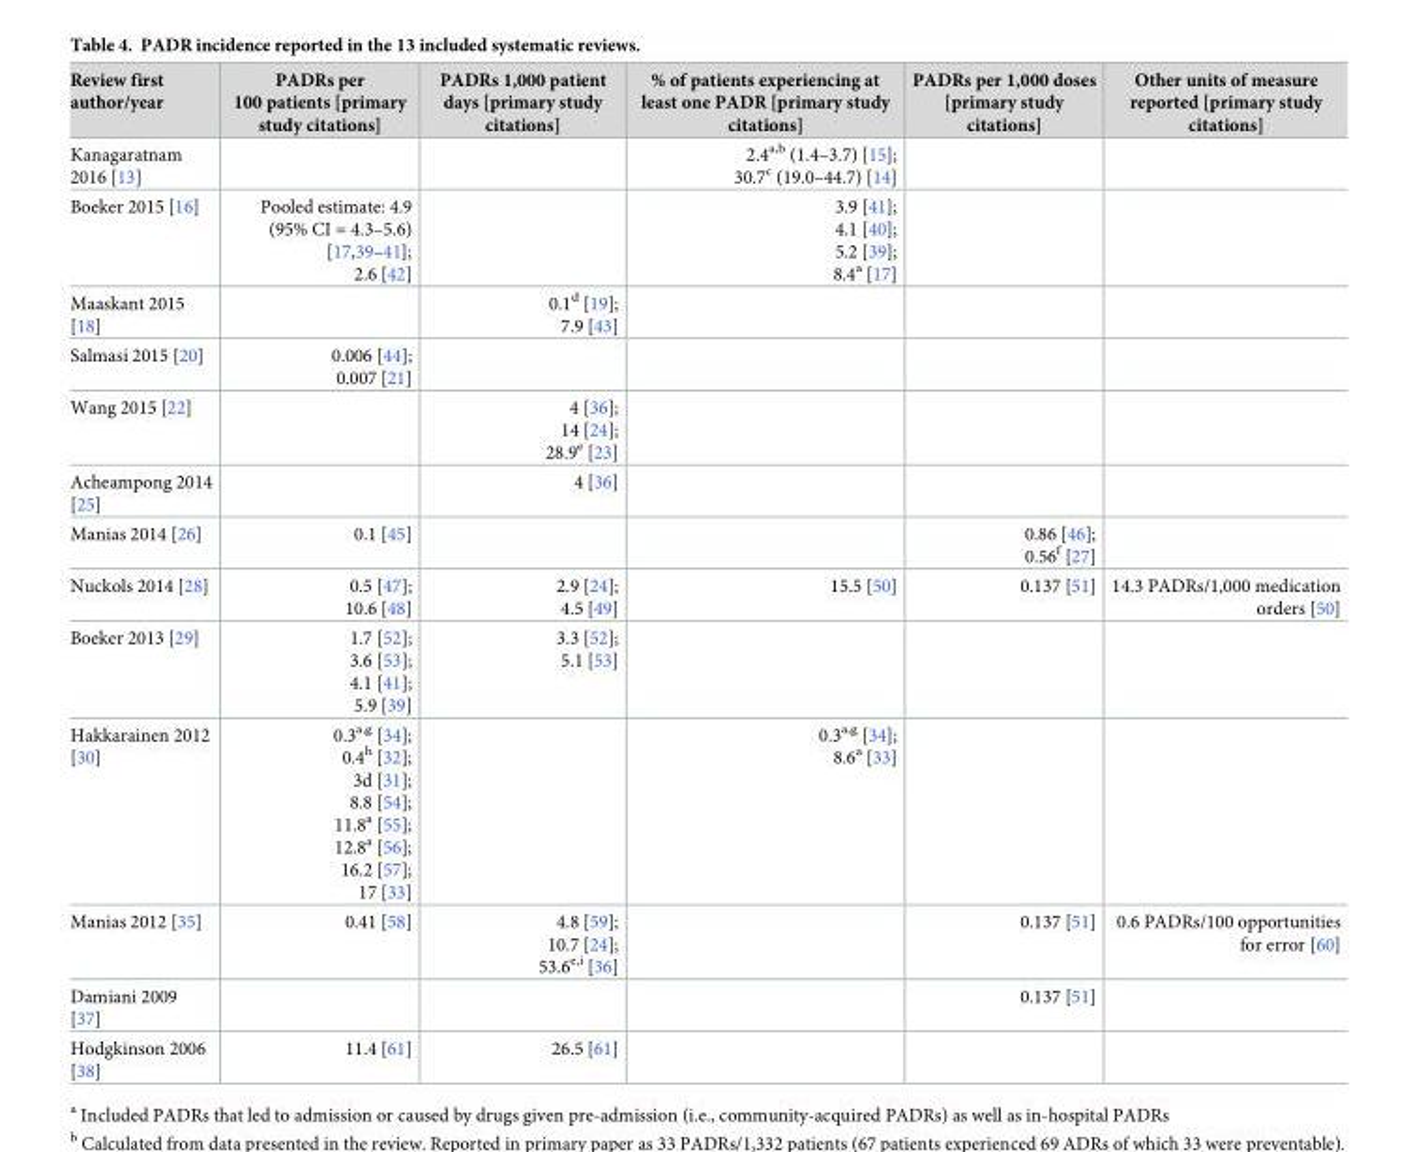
<table><thead><tr><td>Review first author/year</td><td>PADRs per 100 patients [primary study citations]</td><td>PADRs 1,000 patient days [primary study citations]</td><td>% of patients experiencing at least one PADR [primary study citations]</td><td>PADRs per 1,000 doses [primary study citations]</td><td>Other units of measure reported [primary study citations]</td></tr></thead><tbody><tr><td>Kanagaratnam 2016 [13]</td><td></td><td></td><td>2.4<sup>a,b</sup> (1.4–3.7) [15]; 30.7<sup>c</sup> (19.0–44.7) [14]</td><td></td><td></td></tr><tr><td>Boeker 2015 [16]</td><td>Pooled estimate: 4.9 (95% CI = 4.3–5.6) [17,39–41]; 2.6 [42]</td><td></td><td>3.9 [41]; 4.1 [40]; 5.2 [39]; 8.4<sup>a</sup> [17]</td><td></td><td></td></tr><tr><td>Maaskant 2015 [18]</td><td></td><td>0.1<sup>d</sup> [19]; 7.9 [43]</td><td></td><td></td><td></td></tr><tr><td>Salmasi 2015 [20]</td><td>0.006 [44]; 0.007 [21]</td><td></td><td></td><td></td><td></td></tr><tr><td>Wang 2015 [22]</td><td></td><td>4 [36]; 14 [24]; 28.9<sup>e</sup> [23]</td><td></td><td></td><td></td></tr><tr><td>Acheampong 2014 [25]</td><td></td><td>4 [36]</td><td></td><td></td><td></td></tr><tr><td>Manias 2014 [26]</td><td>0.1 [45]</td><td></td><td></td><td>0.86 [46]; 0.56<sup>f</sup> [27]</td><td></td></tr><tr><td>Nuckols 2014 [28]</td><td>0.5 [47]; 10.6 [48]</td><td>2.9 [24]; 4.5 [49]</td><td>15.5 [50]</td><td>0.137 [51]</td><td>14.3 PADRs/1,000 medication orders [50]</td></tr><tr><td>Boeker 2013 [29]</td><td>1.7 [52]; 3.6 [53]; 4.1 [41]; 5.9 [39]</td><td>3.3 [52]; 5.1 [53]</td><td></td><td></td><td></td></tr><tr><td>Hakkarainen 2012 [30]</td><td>0.3<sup>a,g</sup> [34]; 0.4<sup>h</sup> [32]; 3d [31]; 8.8 [54]; 11.8<sup>a</sup> [55]; 12.8<sup>a</sup> [56]; 16.2 [57]; 17 [33]</td><td></td><td>0.3<sup>a,g</sup> [34]; 8.6<sup>a</sup> [33]</td><td></td><td></td></tr><tr><td>Manias 2012 [35]</td><td>0.41 [58]</td><td>4.8 [59]; 10.7 [24]; 53.6<sup>e,i</sup> [36]</td><td></td><td>0.137 [51]</td><td>0.6 PADRs/100 opportunities for error [60]</td></tr><tr><td>Damiani 2009 [37]</td><td></td><td></td><td></td><td>0.137 [51]</td><td></td></tr><tr><td>Hodgkinson 2006 [38]</td><td>11.4 [61]</td><td>26.5 [61]</td><td></td><td></td><td></td></tr></tbody></table>